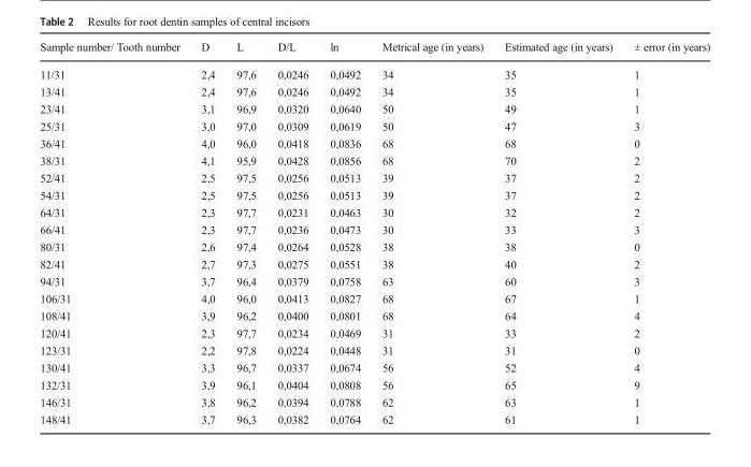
<table><thead><tr><td>Sample number/ Tooth number</td><td>D</td><td>L</td><td>D/L</td><td>ln</td><td>Metrical age (in years)</td><td>Estimated age (in years)</td><td>± error (in years)</td></tr></thead><tbody><tr><td>11/31</td><td>2,4</td><td>97,6</td><td>0,0246</td><td>0,0492</td><td>34</td><td>35</td><td>1</td></tr><tr><td>13/41</td><td>2,4</td><td>97,6</td><td>0,0246</td><td>0,0492</td><td>34</td><td>35</td><td>1</td></tr><tr><td>23/41</td><td>3,1</td><td>96,9</td><td>0,0320</td><td>0,0640</td><td>50</td><td>49</td><td>1</td></tr><tr><td>25/31</td><td>3,0</td><td>97,0</td><td>0,0309</td><td>0,0619</td><td>50</td><td>47</td><td>3</td></tr><tr><td>36/41</td><td>4,0</td><td>96,0</td><td>0,0418</td><td>0,0836</td><td>68</td><td>68</td><td>0</td></tr><tr><td>38/31</td><td>4,1</td><td>95,9</td><td>0,0428</td><td>0,0856</td><td>68</td><td>70</td><td>2</td></tr><tr><td>52/41</td><td>2,5</td><td>97,5</td><td>0,0256</td><td>0,0513</td><td>39</td><td>37</td><td>2</td></tr><tr><td>54/31</td><td>2,5</td><td>97,5</td><td>0,0256</td><td>0,0513</td><td>39</td><td>37</td><td>2</td></tr><tr><td>64/31</td><td>2,3</td><td>97,7</td><td>0,0231</td><td>0,0463</td><td>30</td><td>32</td><td>2</td></tr><tr><td>66/41</td><td>2,3</td><td>97,7</td><td>0,0236</td><td>0,0473</td><td>30</td><td>33</td><td>3</td></tr><tr><td>80/31</td><td>2,6</td><td>97,4</td><td>0,0264</td><td>0,0528</td><td>38</td><td>38</td><td>0</td></tr><tr><td>82/41</td><td>2,7</td><td>97,3</td><td>0,0275</td><td>0,0551</td><td>38</td><td>40</td><td>2</td></tr><tr><td>94/31</td><td>3,7</td><td>96,4</td><td>0,0379</td><td>0,0758</td><td>63</td><td>60</td><td>3</td></tr><tr><td>106/31</td><td>4,0</td><td>96,0</td><td>0,0413</td><td>0,0827</td><td>68</td><td>67</td><td>1</td></tr><tr><td>108/41</td><td>3,9</td><td>96,2</td><td>0,0400</td><td>0,0801</td><td>68</td><td>64</td><td>4</td></tr><tr><td>120/41</td><td>2,3</td><td>97,7</td><td>0,0234</td><td>0,0469</td><td>31</td><td>33</td><td>2</td></tr><tr><td>123/31</td><td>2,2</td><td>97,8</td><td>0,0224</td><td>0,0448</td><td>31</td><td>31</td><td>0</td></tr><tr><td>130/41</td><td>3,3</td><td>96,7</td><td>0,0337</td><td>0,0674</td><td>56</td><td>52</td><td>4</td></tr><tr><td>132/31</td><td>3,9</td><td>96,1</td><td>0,0404</td><td>0,0808</td><td>56</td><td>65</td><td>9</td></tr><tr><td>146/31</td><td>3,8</td><td>96,2</td><td>0,0394</td><td>0,0788</td><td>62</td><td>63</td><td>1</td></tr><tr><td>148/41</td><td>3,7</td><td>96,3</td><td>0,0382</td><td>0,0764</td><td>62</td><td>61</td><td>1</td></tr></tbody></table>